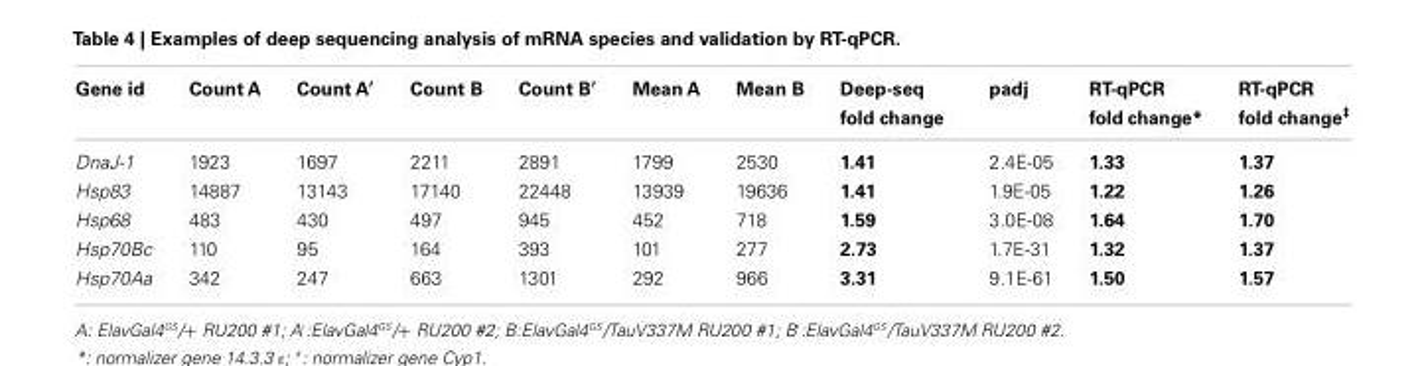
<table><thead><tr><td>Gene id</td><td>Count A</td><td>Count A′</td><td>Count B</td><td>Count B′</td><td>Mean A</td><td>Mean B</td><td>Deep-seq fold change</td><td>padj</td><td>RT-qPCR fold change*</td><td>RT-qPCR fold change<sup>‡</sup></td></tr></thead><tbody><tr><td>DnaJ-1</td><td>1923</td><td>1697</td><td>2211</td><td>2891</td><td>1799</td><td>2530</td><td>1.41</td><td>2.4E-05</td><td>1.33</td><td>1.37</td></tr><tr><td>Hsp83</td><td>14887</td><td>13143</td><td>17140</td><td>22448</td><td>13939</td><td>19636</td><td>1.41</td><td>1.9E-05</td><td>1.22</td><td>1.26</td></tr><tr><td>Hsp68</td><td>483</td><td>430</td><td>497</td><td>945</td><td>452</td><td>718</td><td>1.59</td><td>3.0E-08</td><td>1.64</td><td>1.70</td></tr><tr><td>Hsp70Bc</td><td>110</td><td>95</td><td>164</td><td>393</td><td>101</td><td>277</td><td>2.73</td><td>1.7E-31</td><td>1.32</td><td>1.37</td></tr><tr><td>Hsp70Aa</td><td>342</td><td>247</td><td>663</td><td>1301</td><td>292</td><td>966</td><td>3.31</td><td>9.1E-61</td><td>1.50</td><td>1.57</td></tr></tbody></table>